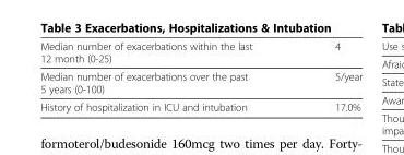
<table><tbody><tr><td>Median number of exacerbations within the last 12 month (0-25)</td><td>4</td></tr><tr><td>Median number of exacerbations over the past 5 years (0-100)</td><td>5/year</td></tr><tr><td>History of hospitalization in ICU and intubation</td><td>17.0%</td></tr></tbody></table>